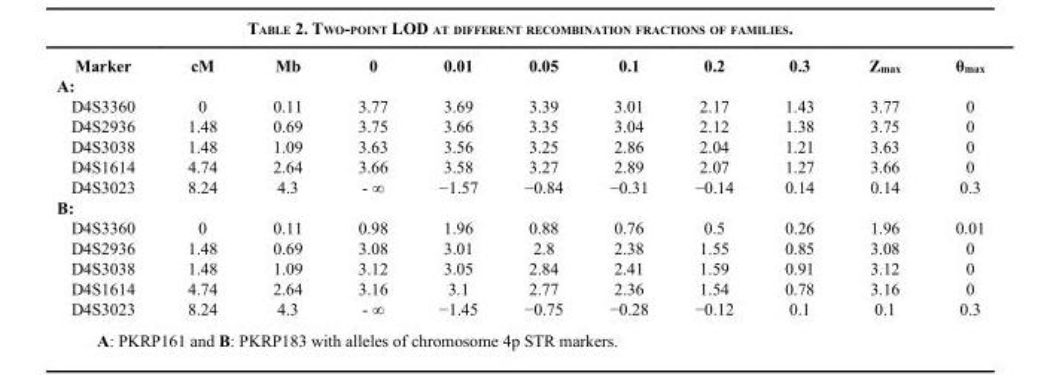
<table><thead><tr><td>Marker</td><td>cM</td><td>Mb</td><td>0</td><td>0.01</td><td>0.05</td><td>0.1</td><td>0.2</td><td>0.3</td><td>Z<sub>max</sub></td><td>θ<sub>max</sub></td></tr></thead><tbody><tr><td colspan="11">A:</td></tr><tr><td>D4S3360</td><td>0</td><td>0.11</td><td>3.77</td><td>3.69</td><td>3.39</td><td>3.01</td><td>2.17</td><td>1.43</td><td>3.77</td><td>0</td></tr><tr><td>D4S2936</td><td>1.48</td><td>0.69</td><td>3.75</td><td>3.66</td><td>3.35</td><td>3.04</td><td>2.12</td><td>1.38</td><td>3.75</td><td>0</td></tr><tr><td>D4S3038</td><td>1.48</td><td>1.09</td><td>3.63</td><td>3.56</td><td>3.25</td><td>2.86</td><td>2.04</td><td>1.21</td><td>3.63</td><td>0</td></tr><tr><td>D4S1614</td><td>4.74</td><td>2.64</td><td>3.66</td><td>3.58</td><td>3.27</td><td>2.89</td><td>2.07</td><td>1.27</td><td>3.66</td><td>0</td></tr><tr><td>D4S3023</td><td>8.24</td><td>4.3</td><td>- ∞</td><td>−1.57</td><td>−0.84</td><td>−0.31</td><td>−0.14</td><td>0.14</td><td>0.14</td><td>0.3</td></tr><tr><td colspan="11">B:</td></tr><tr><td>D4S3360</td><td>0</td><td>0.11</td><td>0.98</td><td>1.96</td><td>0.88</td><td>0.76</td><td>0.5</td><td>0.26</td><td>1.96</td><td>0.01</td></tr><tr><td>D4S2936</td><td>1.48</td><td>0.69</td><td>3.08</td><td>3.01</td><td>2.8</td><td>2.38</td><td>1.55</td><td>0.85</td><td>3.08</td><td>0</td></tr><tr><td>D4S3038</td><td>1.48</td><td>1.09</td><td>3.12</td><td>3.05</td><td>2.84</td><td>2.41</td><td>1.59</td><td>0.91</td><td>3.12</td><td>0</td></tr><tr><td>D4S1614</td><td>4.74</td><td>2.64</td><td>3.16</td><td>3.1</td><td>2.77</td><td>2.36</td><td>1.54</td><td>0.78</td><td>3.16</td><td>0</td></tr><tr><td>D4S3023</td><td>8.24</td><td>4.3</td><td>- ∞</td><td>−1.45</td><td>−0.75</td><td>−0.28</td><td>−0.12</td><td>0.1</td><td>0.1</td><td>0.3</td></tr></tbody></table>